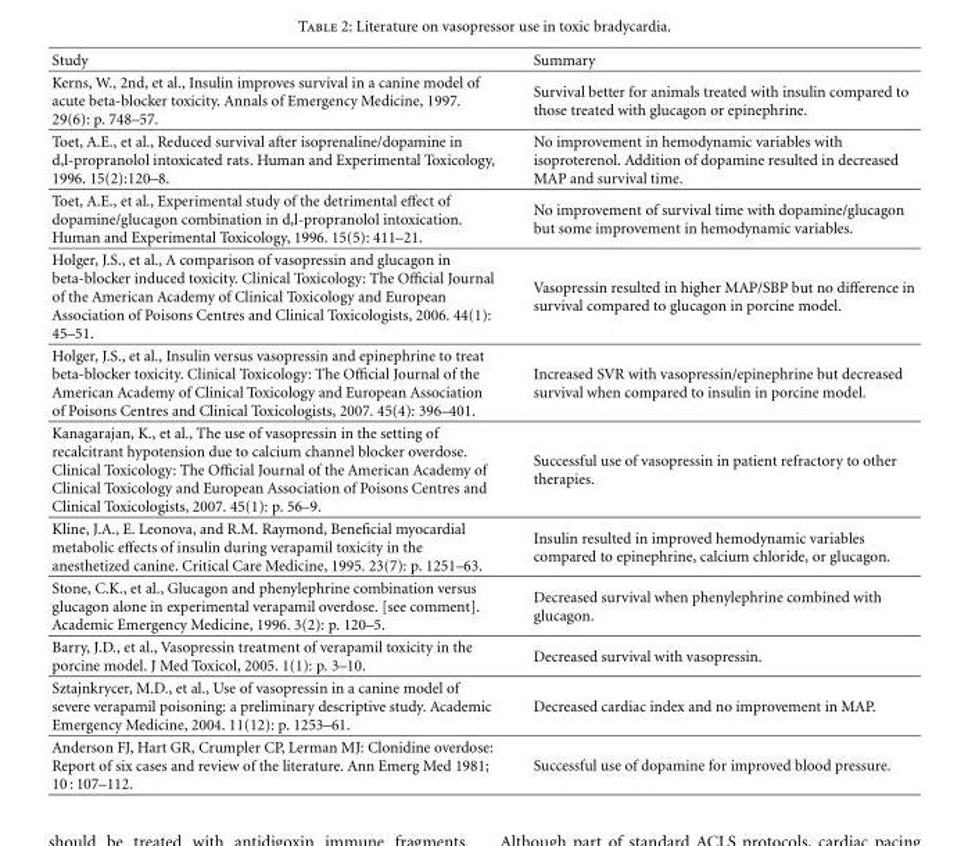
<table><thead><tr><td>Study</td><td>Summary</td></tr></thead><tbody><tr><td>Kerns, W., 2nd, et al., Insulin improves survival in a canine model of acute beta-blocker toxicity. Annals of Emergency Medicine, 1997. 29(6): p. 748–57.</td><td>Survival better for animals treated with insulin compared to those treated with glucagon or epinephrine.</td></tr><tr><td>Toet, A.E., et al., Reduced survival after isoprenaline/dopamine in d,l-propranolol intoxicated rats. Human and Experimental Toxicology, 1996. 15(2):120–8.</td><td>No improvement in hemodynamic variables with isoproterenol. Addition of dopamine resulted in decreased MAP and survival time.</td></tr><tr><td>Toet, A.E., et al., Experimental study of the detrimental effect of dopamine/glucagon combination in d,l-propranolol intoxication. Human and Experimental Toxicology, 1996. 15(5): 411–21.</td><td>No improvement of survival time with dopamine/glucagon but some improvement in hemodynamic variables.</td></tr><tr><td>Holger, J.S., et al., A comparison of vasopressin and glucagon in beta-blocker induced toxicity. Clinical Toxicology: The Official Journal of the American Academy of Clinical Toxicology and European Association of Poisons Centres and Clinical Toxicologists, 2006. 44(1): 45–51.</td><td>Vasopressin resulted in higher MAP/SBP but no difference in survival compared to glucagon in porcine model.</td></tr><tr><td>Holger, J.S., et al., Insulin versus vasopressin and epinephrine to treat beta-blocker toxicity. Clinical Toxicology: The Official Journal of the American Academy of Clinical Toxicology and European Association of Poisons Centres and Clinical Toxicologists, 2007. 45(4): 396–401.</td><td>Increased SVR with vasopressin/epinephrine but decreased survival when compared to insulin in porcine model.</td></tr><tr><td>Kanagarajan, K., et al., The use of vasopressin in the setting of recalcitrant hypotension due to calcium channel blocker overdose. Clinical Toxicology: The Official Journal of the American Academy of Clinical Toxicology and European Association of Poisons Centres and Clinical Toxicologists, 2007. 45(1): p. 56–9.</td><td>Successful use of vasopressin in patient refractory to other therapies.</td></tr><tr><td>Kline, J.A., E. Leonova, and R.M. Raymond, Beneficial myocardial metabolic effects of insulin during verapamil toxicity in the anesthetized canine. Critical Care Medicine, 1995. 23(7): p. 1251–63.</td><td>Insulin resulted in improved hemodynamic variables compared to epinephrine, calcium chloride, or glucagon.</td></tr><tr><td>Stone, C.K., et al., Glucagon and phenylephrine combination versus glucagon alone in experimental verapamil overdose. [see comment]. Academic Emergency Medicine, 1996. 3(2): p. 120–5.</td><td>Decreased survival when phenylephrine combined with glucagon.</td></tr><tr><td>Barry, J.D., et al., Vasopressin treatment of verapamil toxicity in the porcine model. J Med Toxicol, 2005. 1(1): p. 3–10.</td><td>Decreased survival with vasopressin.</td></tr><tr><td>Sztajnkrycer, M.D., et al., Use of vasopressin in a canine model of severe verapamil poisoning: a preliminary descriptive study. Academic Emergency Medicine, 2004. 11(12): p. 1253–61.</td><td>Decreased cardiac index and no improvement in MAP.</td></tr><tr><td>Anderson FJ, Hart GR, Crumpler CP, Lerman MJ: Clonidine overdose: Report of six cases and review of the literature. Ann Emerg Med 1981; 10 : 107–112.</td><td>Successful use of dopamine for improved blood pressure.</td></tr></tbody></table>